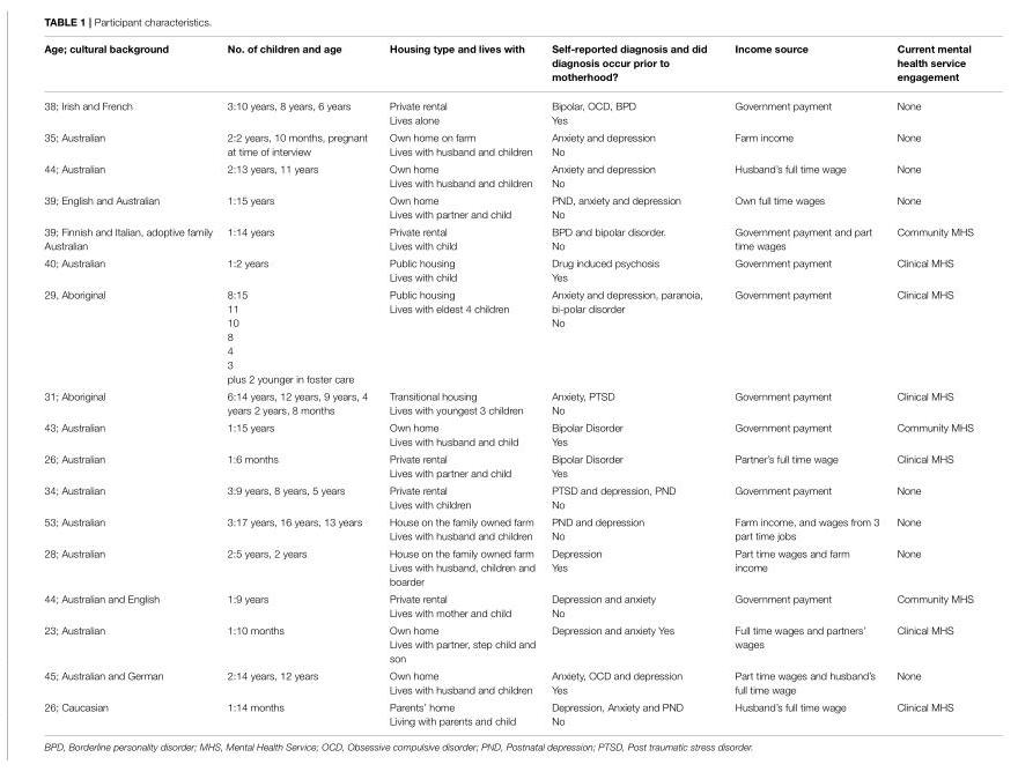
<table><thead><tr><td>Age; cultural background</td><td>No. of children and age</td><td>Housing type and lives with</td><td>Self-reported diagnosis and did diagnosis occur prior to motherhood?</td><td>Income source</td><td>Current mental health service engagement</td></tr></thead><tbody><tr><td>38; Irish and French</td><td>3:10 years, 8 years, 6 years</td><td>Private rental Lives alone</td><td>Bipolar, OCD, BPD Yes</td><td>Government payment</td><td>None</td></tr><tr><td>35; Australian</td><td>2:2 years, 10 months, pregnant at time of interview</td><td>Own home on farm Lives with husband and children</td><td>Anxiety and depression No</td><td>Farm income</td><td>None</td></tr><tr><td>44; Australian</td><td>2:13 years, 11 years</td><td>Own home Lives with husband and children</td><td>Anxiety and depression No</td><td>Husband’s full time wage</td><td>None</td></tr><tr><td>39; English and Australian</td><td>1:15 years</td><td>Own home Lives with partner and child</td><td>PND, anxiety and depression No</td><td>Own full time wages</td><td>None</td></tr><tr><td>39; Finnish and Italian, adoptive family Australian</td><td>1:14 years</td><td>Private rental Lives with child</td><td>BPD and bipolar disorder. No</td><td>Government payment and part time wages</td><td>Community MHS</td></tr><tr><td>40; Australian</td><td>1:2 years</td><td>Public housing Lives with child</td><td>Drug induced psychosis Yes</td><td>Government payment</td><td>Clinical MHS</td></tr><tr><td>29, Aboriginal</td><td>8:15 11 10 8 4 3 plus 2 younger in foster care</td><td>Public housing Lives with eldest 4 children</td><td>Anxiety and depression, paranoia, bi-polar disorder No</td><td>Government payment</td><td>Clinical MHS</td></tr><tr><td>31; Aboriginal</td><td>6:14 years, 12 years, 9 years, 4 years 2 years, 8 months</td><td>Transitional housing Lives with youngest 3 children</td><td>Anxiety, PTSD No</td><td>Government payment</td><td>Clinical MHS</td></tr><tr><td>43; Australian</td><td>1:15 years</td><td>Own home Lives with husband and child</td><td>Bipolar Disorder Yes</td><td>Government payment</td><td>Community MHS</td></tr><tr><td>26; Australian</td><td>1:6 months</td><td>Private rental Lives with partner and child</td><td>Bipolar Disorder Yes</td><td>Partner’s full time wage</td><td>Clinical MHS</td></tr><tr><td>34; Australian</td><td>3:9 years, 8 years, 5 years</td><td>Private rental Lives with children</td><td>PTSD and depression, PND No</td><td>Government payment</td><td>None</td></tr><tr><td>53; Australian</td><td>3:17 years, 16 years, 13 years</td><td>House on the family owned farm Lives with husband and children</td><td>PND and depression No</td><td>Farm income, and wages from 3 part time jobs</td><td>None</td></tr><tr><td>28; Australian</td><td>2:5 years, 2 years</td><td>House on the family owned farm Lives with husband, children and boarder</td><td>Depression Yes</td><td>Part time wages and farm income</td><td>None</td></tr><tr><td>44; Australian and English</td><td>1:9 years</td><td>Private rental Lives with mother and child</td><td>Depression and anxiety No</td><td>Government payment</td><td>Community MHS</td></tr><tr><td>23; Australian</td><td>1:10 months</td><td>Own home Lives with partner, step child and son</td><td>Depression and anxiety Yes</td><td>Full time wages and partners’ wages</td><td>Clinical MHS</td></tr><tr><td>45; Australian and German</td><td>2:14 years, 12 years</td><td>Own home Lives with husband and children</td><td>Anxiety, OCD and depression Yes</td><td>Part time wages and husband’s full time wage</td><td>None</td></tr><tr><td>26; Caucasian</td><td>1:14 months</td><td>Parents’ home Living with parents and child</td><td>Depression, Anxiety and PND No</td><td>Husband’s full time wage</td><td>Clinical MHS</td></tr></tbody></table>